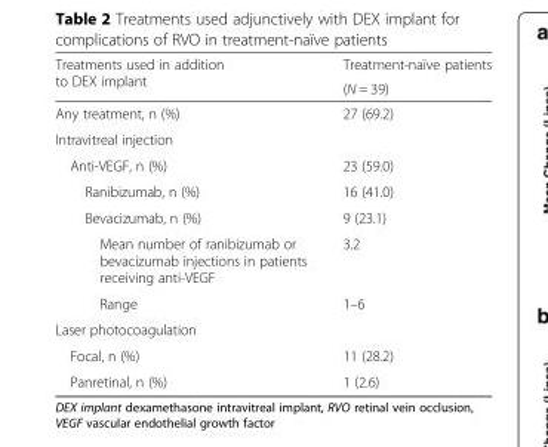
<table><thead><tr><td rowspan="2">Treatments used in addition to DEX implant</td><td rowspan="2">Treatment-naïve patients (N = 39)</td></tr><tr></tr></thead><tbody><tr><td>Any treatment, n (%)</td><td>27 (69.2)</td></tr><tr><td colspan="2">Intravitreal injection</td></tr><tr><td>Anti-VEGF, n (%)</td><td>23 (59.0)</td></tr><tr><td>Ranibizumab, n (%)</td><td>16 (41.0)</td></tr><tr><td>Bevacizumab, n (%)</td><td>9 (23.1)</td></tr><tr><td>Mean number of ranibizumab or bevacizumab injections in patients receiving anti-VEGF</td><td>3.2</td></tr><tr><td>Range</td><td>1–6</td></tr><tr><td colspan="2">Laser photocoagulation</td></tr><tr><td>Focal, n (%)</td><td>11 (28.2)</td></tr><tr><td>Panretinal, n (%)</td><td>1 (2.6)</td></tr></tbody></table>